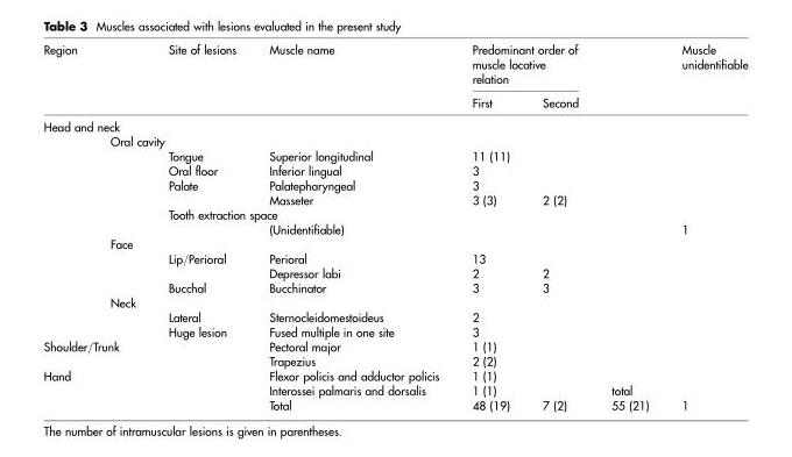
<table><thead><tr><td rowspan="2">Region</td><td rowspan="2"></td><td rowspan="2">Site of lesions</td><td rowspan="2">Muscle name</td><td colspan="2">Predominant order of muscle locative relation</td><td rowspan="2"></td><td rowspan="2">Muscle unidentifiable</td></tr><tr><td>First</td><td>Second</td></tr></thead><tbody><tr><td colspan="8">Head and neck</td></tr><tr><td></td><td colspan="2">Oral cavity</td><td></td><td></td><td></td><td></td><td></td></tr><tr><td></td><td></td><td>Tongue</td><td>Superior longitudinal</td><td>11 (11)</td><td></td><td></td><td></td></tr><tr><td></td><td></td><td>Oral floor</td><td>Inferior lingual</td><td>3</td><td></td><td></td><td></td></tr><tr><td></td><td></td><td>Palate</td><td>Palatepharyngeal</td><td>3</td><td></td><td></td><td></td></tr><tr><td></td><td></td><td></td><td>Masseter</td><td>3 (3)</td><td>2 (2)</td><td></td><td></td></tr><tr><td></td><td></td><td colspan="2">Tooth extraction space</td><td></td><td></td><td></td><td></td></tr><tr><td></td><td></td><td></td><td>(Unidentifiable)</td><td></td><td></td><td></td><td>1</td></tr><tr><td></td><td>Face</td><td></td><td></td><td></td><td></td><td></td><td></td></tr><tr><td></td><td></td><td>Lip/Perioral</td><td>Perioral</td><td>13</td><td></td><td></td><td></td></tr><tr><td></td><td></td><td></td><td>Depressor labi</td><td>2</td><td>2</td><td></td><td></td></tr><tr><td></td><td></td><td>Bucchal</td><td>Bucchinator</td><td>3</td><td>3</td><td></td><td></td></tr><tr><td></td><td>Neck</td><td></td><td></td><td></td><td></td><td></td><td></td></tr><tr><td></td><td></td><td>Lateral</td><td>Sternocleidomestoideus</td><td>2</td><td></td><td></td><td></td></tr><tr><td></td><td></td><td>Huge lesion</td><td>Fused multiple in one site</td><td>3</td><td></td><td></td><td></td></tr><tr><td colspan="2">Shoulder/Trunk</td><td></td><td>Pectoral major</td><td>1 (1)</td><td></td><td></td><td></td></tr><tr><td></td><td></td><td></td><td>Trapezius</td><td>2 (2)</td><td></td><td></td><td></td></tr><tr><td rowspan="3">Hand</td><td></td><td></td><td>Flexor policis and adductor policis</td><td>1 (1)</td><td></td><td></td><td></td></tr><tr><td></td><td></td><td>Interossei palmaris and dorsalis</td><td>1 (1)</td><td></td><td>total</td><td></td></tr><tr><td></td><td></td><td>Total</td><td>48 (19)</td><td>7 (2)</td><td>55 (21)</td><td>1</td></tr></tbody></table>